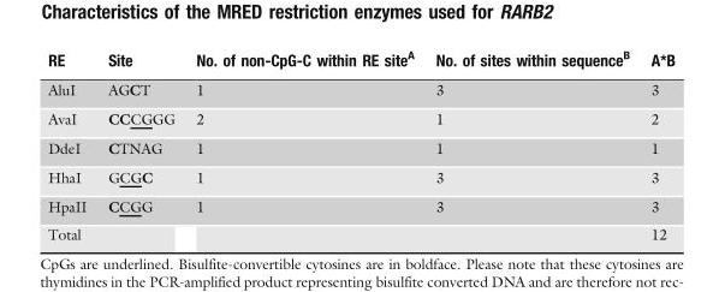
<table><thead><tr><td>RE</td><td>Site</td><td>No. of non-CpG-C within RE site<sup>A</sup></td><td>No. of sites within sequence<sup>B</sup></td><td>A*B</td></tr></thead><tbody><tr><td>AluI</td><td>AGCT</td><td>1</td><td>3</td><td>3</td></tr><tr><td>AvaI</td><td>CCCGGG</td><td>2</td><td>1</td><td>2</td></tr><tr><td>DdeI</td><td>CTNAG</td><td>1</td><td>1</td><td>1</td></tr><tr><td>HhaI</td><td>GCGC</td><td>1</td><td>3</td><td>3</td></tr><tr><td>HpaII</td><td>CCGG</td><td>1</td><td>3</td><td>3</td></tr><tr><td>Total</td><td></td><td></td><td></td><td>12</td></tr></tbody></table>